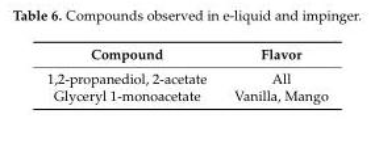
<table><thead><tr><td>Compound</td><td>Flavor</td></tr></thead><tbody><tr><td>1,2-propanediol, 2-acetate</td><td>All</td></tr><tr><td>Glyceryl 1-monoacetate</td><td>Vanilla, Mango</td></tr></tbody></table>